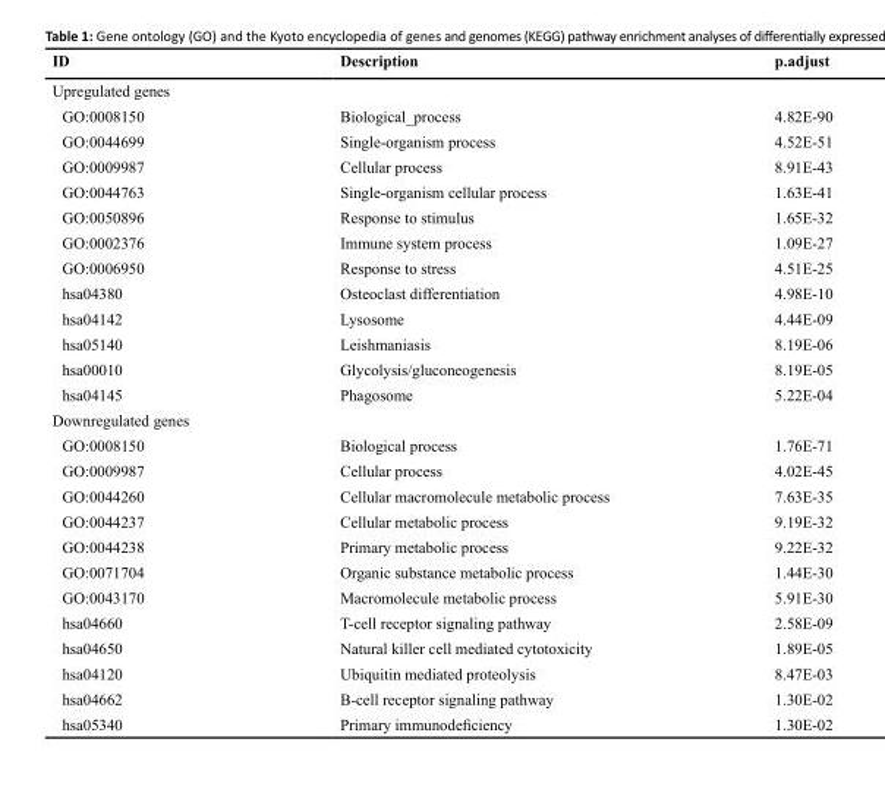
<table><thead><tr><td>ID</td><td>Description</td><td>p.adjust</td></tr></thead><tbody><tr><td colspan="3">Upregulated genes</td></tr><tr><td>GO:0008150</td><td>Biological_process</td><td>4.82E-90</td></tr><tr><td>GO:0044699</td><td>Single-organism process</td><td>4.52E-51</td></tr><tr><td>GO:0009987</td><td>Cellular process</td><td>8.91E-43</td></tr><tr><td>GO:0044763</td><td>Single-organism cellular process</td><td>1.63E-41</td></tr><tr><td>GO:0050896</td><td>Response to stimulus</td><td>1.65E-32</td></tr><tr><td>GO:0002376</td><td>Immune system process</td><td>1.09E-27</td></tr><tr><td>GO:0006950</td><td>Response to stress</td><td>4.51E-25</td></tr><tr><td>hsa04380</td><td>Osteoclast differentiation</td><td>4.98E-10</td></tr><tr><td>hsa04142</td><td>Lysosome</td><td>4.44E-09</td></tr><tr><td>hsa05140</td><td>Leishmaniasis</td><td>8.19E-06</td></tr><tr><td>hsa00010</td><td>Glycolysis/gluconeogenesis</td><td>8.19E-05</td></tr><tr><td>hsa04145</td><td>Phagosome</td><td>5.22E-04</td></tr><tr><td colspan="3">Downregulated genes</td></tr><tr><td>GO:0008150</td><td>Biological process</td><td>1.76E-71</td></tr><tr><td>GO:0009987</td><td>Cellular process</td><td>4.02E-45</td></tr><tr><td>GO:0044260</td><td>Cellular macromolecule metabolic process</td><td>7.63E-35</td></tr><tr><td>GO:0044237</td><td>Cellular metabolic process</td><td>9.19E-32</td></tr><tr><td>GO:0044238</td><td>Primary metabolic process</td><td>9.22E-32</td></tr><tr><td>GO:0071704</td><td>Organic substance metabolic process</td><td>1.44E-30</td></tr><tr><td>GO:0043170</td><td>Macromolecule metabolic process</td><td>5.91E-30</td></tr><tr><td>hsa04660</td><td>T-cell receptor signaling pathway</td><td>2.58E-09</td></tr><tr><td>hsa04650</td><td>Natural killer cell mediated cytotoxicity</td><td>1.89E-05</td></tr><tr><td>hsa04120</td><td>Ubiquitin mediated proteolysis</td><td>8.47E-03</td></tr><tr><td>hsa04662</td><td>B-cell receptor signaling pathway</td><td>1.30E-02</td></tr><tr><td>hsa05340</td><td>Primary immunodeficiency</td><td>1.30E-02</td></tr></tbody></table>